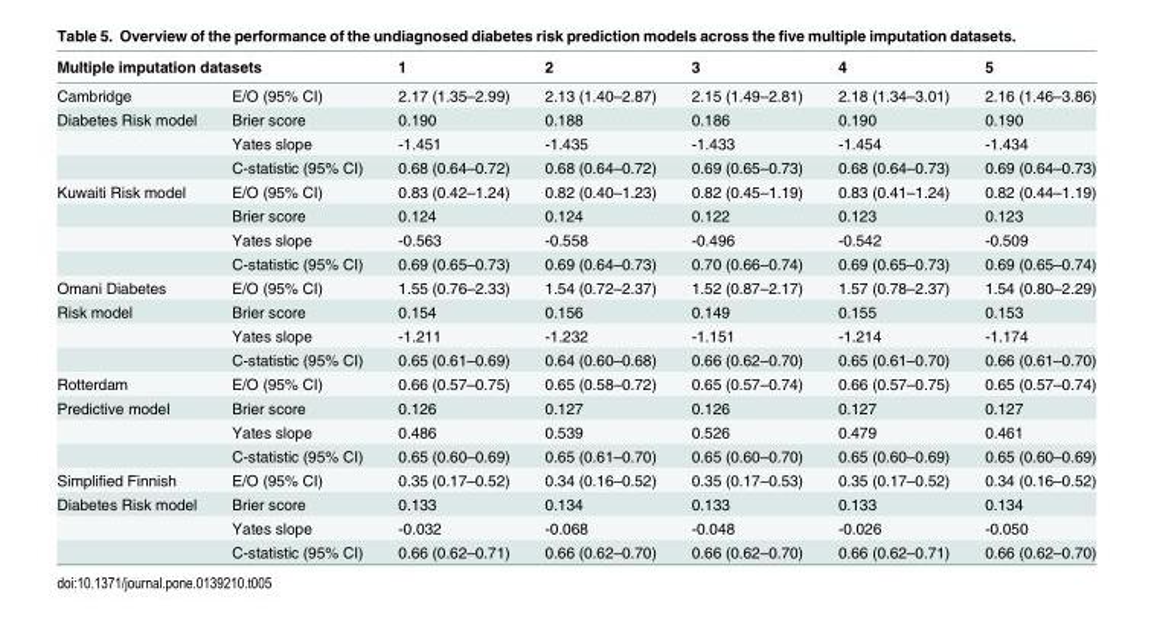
<table><thead><tr><td colspan="2">Multiple imputation datasets</td><td rowspan="2">1 2.17 (1.35–2.99)</td><td rowspan="2">2 2.13 (1.40–2.87)</td><td rowspan="2">3 2.15 (1.49–2.81)</td><td rowspan="2">4 2.18 (1.34–3.01)</td><td rowspan="2">5 2.16 (1.46–3.86)</td></tr><tr><td>Cambridge</td><td>E/O (95% CI)</td></tr></thead><tbody><tr><td rowspan="3">Diabetes Risk model</td><td>Brier score</td><td>0.190</td><td>0.188</td><td>0.186</td><td>0.190</td><td>0.190</td></tr><tr><td>Yates slope</td><td>-1.451</td><td>-1.435</td><td>-1.433</td><td>-1.454</td><td>-1.434</td></tr><tr><td>C-statistic (95% CI)</td><td>0.68 (0.64–0.72)</td><td>0.68 (0.64–0.72)</td><td>0.69 (0.65–0.73)</td><td>0.68 (0.64–0.73)</td><td>0.69 (0.64–0.73)</td></tr><tr><td rowspan="4">Kuwaiti Risk model</td><td>E/O (95% CI)</td><td>0.83 (0.42–1.24)</td><td>0.82 (0.40–1.23)</td><td>0.82 (0.45–1.19)</td><td>0.83 (0.41–1.24)</td><td>0.82 (0.44–1.19)</td></tr><tr><td>Brier score</td><td>0.124</td><td>0.124</td><td>0.122</td><td>0.123</td><td>0.123</td></tr><tr><td>Yates slope</td><td>-0.563</td><td>-0.558</td><td>-0.496</td><td>-0.542</td><td>-0.509</td></tr><tr><td>C-statistic (95% CI)</td><td>0.69 (0.65–0.73)</td><td>0.69 (0.64–0.73)</td><td>0.70 (0.66–0.74)</td><td>0.69 (0.65–0.73)</td><td>0.69 (0.65–0.74)</td></tr><tr><td>Omani Diabetes</td><td>E/O (95% CI)</td><td>1.55 (0.76–2.33)</td><td>1.54 (0.72–2.37)</td><td>1.52 (0.87–2.17)</td><td>1.57 (0.78–2.37)</td><td>1.54 (0.80–2.29)</td></tr><tr><td rowspan="3">Risk model</td><td>Brier score</td><td>0.154</td><td>0.156</td><td>0.149</td><td>0.155</td><td>0.153</td></tr><tr><td>Yates slope</td><td>-1.211</td><td>-1.232</td><td>-1.151</td><td>-1.214</td><td>-1.174</td></tr><tr><td>C-statistic (95% CI)</td><td>0.65 (0.61–0.69)</td><td>0.64 (0.60–0.68)</td><td>0.66 (0.62–0.70)</td><td>0.65 (0.61–0.70)</td><td>0.66 (0.61–0.70)</td></tr><tr><td>Rotterdam</td><td>E/O (95% CI)</td><td>0.66 (0.57–0.75)</td><td>0.65 (0.58–0.72)</td><td>0.65 (0.57–0.74)</td><td>0.66 (0.57–0.75)</td><td>0.65 (0.57–0.74)</td></tr><tr><td rowspan="3">Predictive model</td><td>Brier score</td><td>0.126</td><td>0.127</td><td>0.126</td><td>0.127</td><td>0.127</td></tr><tr><td>Yates slope</td><td>0.486</td><td>0.539</td><td>0.526</td><td>0.479</td><td>0.461</td></tr><tr><td>C-statistic (95% CI)</td><td>0.65 (0.60–0.69)</td><td>0.65 (0.61–0.70)</td><td>0.65 (0.60–0.70)</td><td>0.65 (0.60–0.69)</td><td>0.65 (0.60–0.69)</td></tr><tr><td>Simplified Finnish</td><td>E/O (95% CI)</td><td>0.35 (0.17–0.52)</td><td>0.34 (0.16–0.52)</td><td>0.35 (0.17–0.53)</td><td>0.35 (0.17–0.52)</td><td>0.34 (0.16–0.52)</td></tr><tr><td rowspan="3">Diabetes Risk model</td><td>Brier score</td><td>0.133</td><td>0.134</td><td>0.133</td><td>0.133</td><td>0.134</td></tr><tr><td>Yates slope</td><td>-0.032</td><td>-0.068</td><td>-0.048</td><td>-0.026</td><td>-0.050</td></tr><tr><td>C-statistic (95% CI)</td><td>0.66 (0.62–0.71)</td><td>0.66 (0.62–0.70)</td><td>0.66 (0.62–0.70)</td><td>0.66 (0.62–0.71)</td><td>0.66 (0.62–0.70)</td></tr></tbody></table>